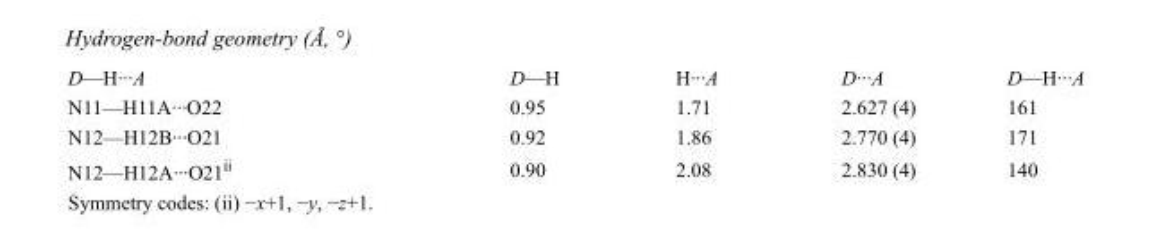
<table><tbody><tr><td>D—H···A</td><td>D—H</td><td>H···A</td><td>D···A</td><td>D—H···A</td></tr><tr><td>N11—H11A···O22</td><td>0.95</td><td>1.71</td><td>2.627 (4)</td><td>161</td></tr><tr><td>N12—H12B···O21</td><td>0.92</td><td>1.86</td><td>2.770 (4)</td><td>171</td></tr><tr><td>N12—H12A···O21<sup>ii</sup></td><td>0.90</td><td>2.08</td><td>2.830 (4)</td><td>140</td></tr></tbody></table>